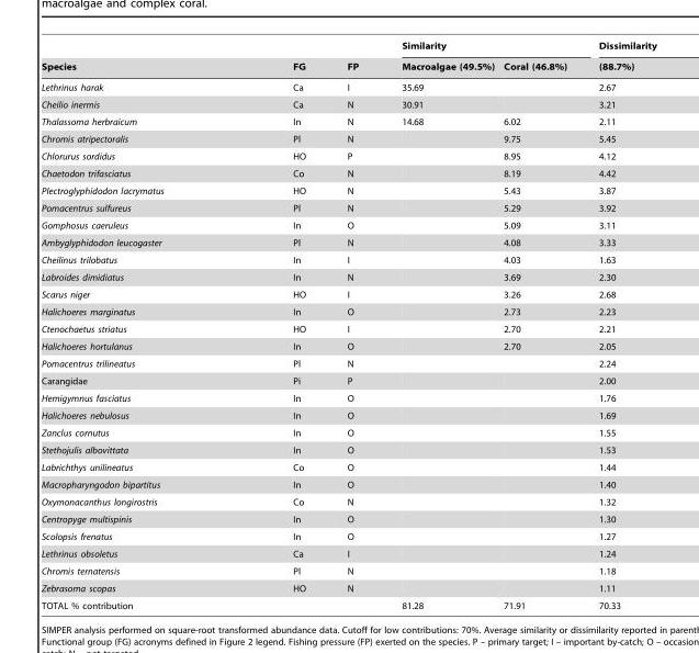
<table><thead><tr><td rowspan="2">Species</td><td rowspan="2">FG</td><td rowspan="2">FP</td><td colspan="2">Similarity</td><td rowspan="2">Dissimilarity (88.7%)</td></tr><tr><td>Macroalgae (49.5%)</td><td>Coral (46.8%)</td></tr></thead><tbody><tr><td>Lethrinus harak</td><td>Ca</td><td>I</td><td>35.69</td><td></td><td>2.67</td></tr><tr><td>Cheilio inermis</td><td>Ca</td><td>N</td><td>30.91</td><td></td><td>3.21</td></tr><tr><td>Thalassoma herbraicum</td><td>In</td><td>N</td><td>14.68</td><td>6.02</td><td>2.11</td></tr><tr><td>Chromis atripectoralis</td><td>Pl</td><td>N</td><td></td><td>9.75</td><td>5.45</td></tr><tr><td>Chlorurus sordidus</td><td>HO</td><td>P</td><td></td><td>8.95</td><td>4.12</td></tr><tr><td>Chaetodon trifasciatus</td><td>Co</td><td>N</td><td></td><td>8.19</td><td>4.42</td></tr><tr><td>Plectroglyphidodon lacrymatus</td><td>HO</td><td>N</td><td></td><td>5.43</td><td>3.87</td></tr><tr><td>Pomacentrus sulfureus</td><td>Pl</td><td>N</td><td></td><td>5.29</td><td>3.92</td></tr><tr><td>Gomphosus caeruleus</td><td>In</td><td>O</td><td></td><td>5.09</td><td>3.11</td></tr><tr><td>Ambyglyphidodon leucogaster</td><td>Pl</td><td>N</td><td></td><td>4.08</td><td>3.33</td></tr><tr><td>Cheilinus trilobatus</td><td>In</td><td>I</td><td></td><td>4.03</td><td>1.63</td></tr><tr><td>Labroides dimidiatus</td><td>In</td><td>N</td><td></td><td>3.69</td><td>2.30</td></tr><tr><td>Scarus niger</td><td>HO</td><td>I</td><td></td><td>3.26</td><td>2.68</td></tr><tr><td>Halichoeres marginatus</td><td>In</td><td>O</td><td></td><td>2.73</td><td>2.23</td></tr><tr><td>Ctenochaetus striatus</td><td>HO</td><td>I</td><td></td><td>2.70</td><td>2.21</td></tr><tr><td>Halichoeres hortulanus</td><td>In</td><td>O</td><td></td><td>2.70</td><td>2.05</td></tr><tr><td>Pomacentrus trilineatus</td><td>Pl</td><td>N</td><td></td><td></td><td>2.24</td></tr><tr><td>Carangidae</td><td>Pi</td><td>P</td><td></td><td></td><td>2.00</td></tr><tr><td>Hemigymnus fasciatus</td><td>In</td><td>O</td><td></td><td></td><td>1.76</td></tr><tr><td>Halichoeres nebulosus</td><td>In</td><td>O</td><td></td><td></td><td>1.69</td></tr><tr><td>Zanclus cornutus</td><td>In</td><td>O</td><td></td><td></td><td>1.55</td></tr><tr><td>Stethojulis albovittata</td><td>In</td><td>O</td><td></td><td></td><td>1.53</td></tr><tr><td>Labrichthys unilineatus</td><td>Co</td><td>O</td><td></td><td></td><td>1.44</td></tr><tr><td>Macropharyngodon bipartitus</td><td>In</td><td>O</td><td></td><td></td><td>1.40</td></tr><tr><td>Oxymonacanthus longirostris</td><td>Co</td><td>N</td><td></td><td></td><td>1.32</td></tr><tr><td>Centropyge multispinis</td><td>In</td><td>O</td><td></td><td></td><td>1.30</td></tr><tr><td>Scolopsis frenatus</td><td>In</td><td>O</td><td></td><td></td><td>1.27</td></tr><tr><td>Lethrinus obsoletus</td><td>Ca</td><td>I</td><td></td><td></td><td>1.24</td></tr><tr><td>Chromis ternatensis</td><td>Pl</td><td>N</td><td></td><td></td><td>1.18</td></tr><tr><td>Zebrasoma scopas</td><td>HO</td><td>N</td><td></td><td></td><td>1.11</td></tr><tr><td colspan="3">TOTAL % contribution</td><td>81.28</td><td>71.91</td><td>70.33</td></tr></tbody></table>